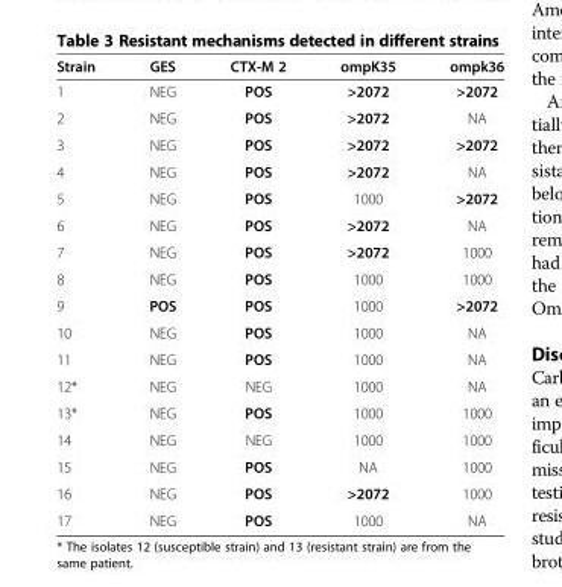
<table><thead><tr><td>Strain</td><td>GES</td><td>CTX-M 2</td><td>ompK35</td><td>ompk36</td></tr></thead><tbody><tr><td>1</td><td>NEG</td><td>POS</td><td>&gt;2072</td><td>&gt;2072</td></tr><tr><td>2</td><td>NEG</td><td>POS</td><td>&gt;2072</td><td>NA</td></tr><tr><td>3</td><td>NEG</td><td>POS</td><td>&gt;2072</td><td>&gt;2072</td></tr><tr><td>4</td><td>NEG</td><td>POS</td><td>&gt;2072</td><td>NA</td></tr><tr><td>5</td><td>NEG</td><td>POS</td><td>1000</td><td>&gt;2072</td></tr><tr><td>6</td><td>NEG</td><td>POS</td><td>&gt;2072</td><td>NA</td></tr><tr><td>7</td><td>NEG</td><td>POS</td><td>&gt;2072</td><td>1000</td></tr><tr><td>8</td><td>NEG</td><td>POS</td><td>1000</td><td>1000</td></tr><tr><td>9</td><td>POS</td><td>POS</td><td>1000</td><td>&gt;2072</td></tr><tr><td>10</td><td>NEG</td><td>POS</td><td>1000</td><td>NA</td></tr><tr><td>11</td><td>NEG</td><td>POS</td><td>1000</td><td>NA</td></tr><tr><td>12*</td><td>NEG</td><td>NEG</td><td>1000</td><td>NA</td></tr><tr><td>13*</td><td>NEG</td><td>POS</td><td>1000</td><td>1000</td></tr><tr><td>14</td><td>NEG</td><td>NEG</td><td>1000</td><td>1000</td></tr><tr><td>15</td><td>NEG</td><td>POS</td><td>NA</td><td>1000</td></tr><tr><td>16</td><td>NEG</td><td>POS</td><td>&gt;2072</td><td>1000</td></tr><tr><td>17</td><td>NEG</td><td>POS</td><td>1000</td><td>NA</td></tr></tbody></table>